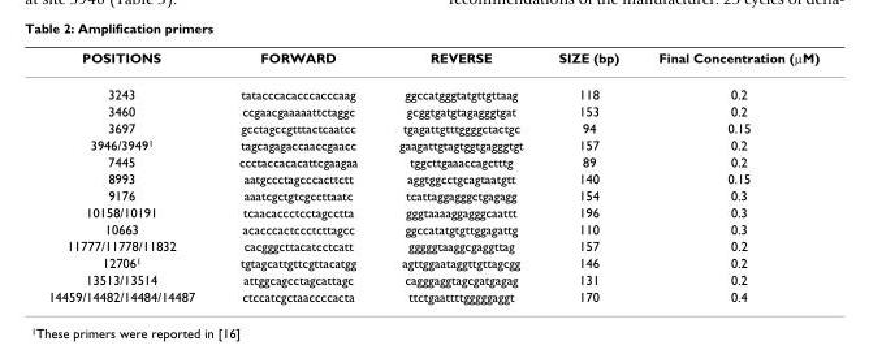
<table><thead><tr><td>POSITIONS</td><td>FORWARD</td><td>REVERSE</td><td>SIZE (bp)</td><td>Final Concentration (µM)</td></tr></thead><tbody><tr><td>3243</td><td>tatacccacacccacccaag</td><td>ggccatgggtatgttgttaag</td><td>118</td><td>0.2</td></tr><tr><td>3460</td><td>ccgaacgaaaaattctaggc</td><td>gcggtgatgtagagggtgat</td><td>153</td><td>0.2</td></tr><tr><td>3697</td><td>gcctagccgtttactcaatcc</td><td>tgagattgtttggggctactgc</td><td>94</td><td>0.15</td></tr><tr><td>3946/3949<sup>1</sup></td><td>tagcagagaccaaccgaacc</td><td>gaagattgtagtggtgagggtgt</td><td>157</td><td>0.2</td></tr><tr><td>7445</td><td>ccctaccacacattcgaagaa</td><td>tggcttgaaaccagctttg</td><td>89</td><td>0.2</td></tr><tr><td>8993</td><td>aatgccctagcccacttctt</td><td>aggtggcctgcagtaatgtt</td><td>140</td><td>0.15</td></tr><tr><td>9176</td><td>aaatcgctgtcgccttaatc</td><td>tcattaggagggctgagagg</td><td>154</td><td>0.3</td></tr><tr><td>10158/10191</td><td>tcaacaccctcctagcctta</td><td>gggtaaaaggagggcaattt</td><td>196</td><td>0.3</td></tr><tr><td>10663</td><td>acacccactccctcttagcc</td><td>ggccatatgtgttggagattg</td><td>110</td><td>0.3</td></tr><tr><td>11777/11778/11832</td><td>cacgggcttacatcctcatt</td><td>gggggtaaggcgaggttag</td><td>157</td><td>0.2</td></tr><tr><td>12706<sup>1</sup></td><td>tgtagcattgttcgttacatgg</td><td>agttggaataggttgttagcgg</td><td>146</td><td>0.2</td></tr><tr><td>13513/13514</td><td>attggcagcctagcattagc</td><td>cagggaggtagcgatgagag</td><td>131</td><td>0.2</td></tr><tr><td>14459/14482/14484/14487</td><td>ctccatcgctaaccccacta</td><td>ttctgaattttgggggaggt</td><td>170</td><td>0.4</td></tr></tbody></table>